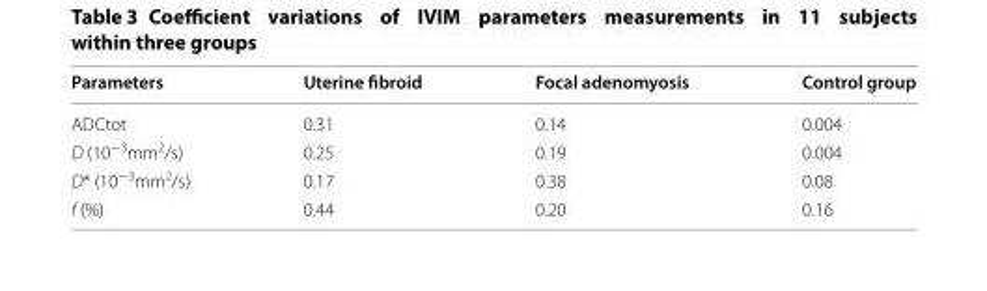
<table><thead><tr><td>Parameters</td><td>Uterine fibroid</td><td>Focal adenomyosis</td><td>Control group</td></tr></thead><tbody><tr><td>ADCtot</td><td>0.31</td><td>0.14</td><td>0.004</td></tr><tr><td>D (10<sup>−3</sup>mm<sup>2</sup>/s)</td><td>0.25</td><td>0.19</td><td>0.004</td></tr><tr><td>D* (10<sup>−3</sup>mm<sup>2</sup>/s)</td><td>0.17</td><td>0.38</td><td>0.08</td></tr><tr><td>f (%)</td><td>0.44</td><td>0.20</td><td>0.16</td></tr></tbody></table>